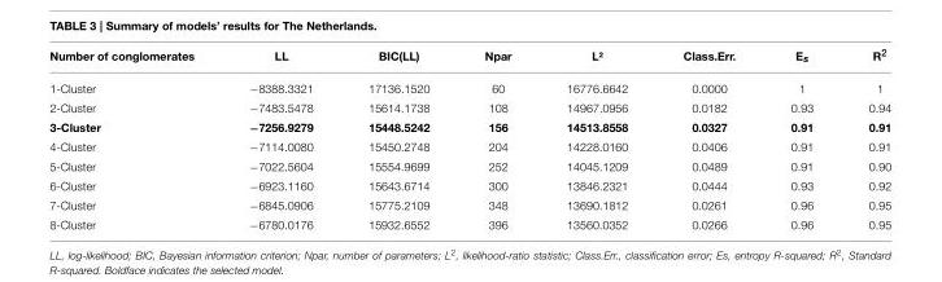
<table><thead><tr><td>Number of conglomerates</td><td>LL</td><td>BIC(LL)</td><td>Npar</td><td>L²</td><td>Class.Err.</td><td>E<sub>s</sub></td><td>R<sup>2</sup></td></tr></thead><tbody><tr><td>1-Cluster</td><td>−8388.3321</td><td>17136.1520</td><td>60</td><td>16776.6642</td><td>0.0000</td><td>1</td><td>1</td></tr><tr><td>2-Cluster</td><td>−7483.5478</td><td>15614.1738</td><td>108</td><td>14967.0956</td><td>0.0182</td><td>0.93</td><td>0.94</td></tr><tr><td>3-Cluster</td><td>−7256.9279</td><td>15448.5242</td><td>156</td><td>14513.8558</td><td>0.0327</td><td>0.91</td><td>0.91</td></tr><tr><td>4-Cluster</td><td>−7114.0080</td><td>15450.2748</td><td>204</td><td>14228.0160</td><td>0.0406</td><td>0.91</td><td>0.91</td></tr><tr><td>5-Cluster</td><td>−7022.5604</td><td>15554.9699</td><td>252</td><td>14045.1209</td><td>0.0489</td><td>0.91</td><td>0.90</td></tr><tr><td>6-Cluster</td><td>−6923.1160</td><td>15643.6714</td><td>300</td><td>13846.2321</td><td>0.0444</td><td>0.93</td><td>0.92</td></tr><tr><td>7-Cluster</td><td>−6845.0906</td><td>15775.2109</td><td>348</td><td>13690.1812</td><td>0.0261</td><td>0.96</td><td>0.95</td></tr><tr><td>8-Cluster</td><td>−6780.0176</td><td>15932.6552</td><td>396</td><td>13560.0352</td><td>0.0266</td><td>0.96</td><td>0.95</td></tr></tbody></table>